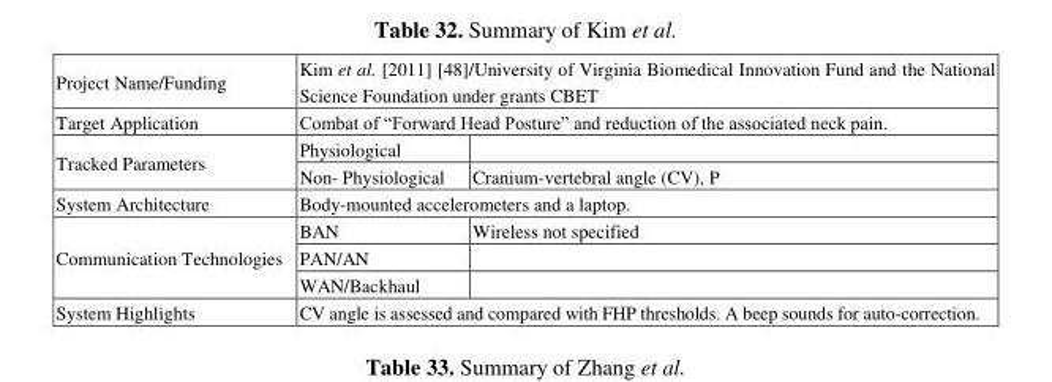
<table><tbody><tr><td>Project Name/Funding</td><td colspan="2">Kim et al. [2011] [48]/University of Virginia Biomedical Innovation Fund and the National Science Foundation under grants CBET</td></tr><tr><td>Target Application</td><td colspan="2">Combat of “Forward Head Posture” and reduction of the associated neck pain.</td></tr><tr><td rowspan="2">Tracked Parameters</td><td>Physiological</td><td></td></tr><tr><td>Non- Physiological</td><td>Cranium-vertebral angle (CV), P</td></tr><tr><td>System Architecture</td><td colspan="2">Body-mounted accelerometers and a laptop.</td></tr><tr><td rowspan="3">Communication Technologies</td><td>BAN</td><td>Wireless not specified</td></tr><tr><td>PAN/AN</td><td></td></tr><tr><td>WAN/Backhaul</td><td></td></tr><tr><td>System Highlights</td><td colspan="2">CV angle is assessed and compared with FHP thresholds. A beep sounds for auto-correction.</td></tr></tbody></table>